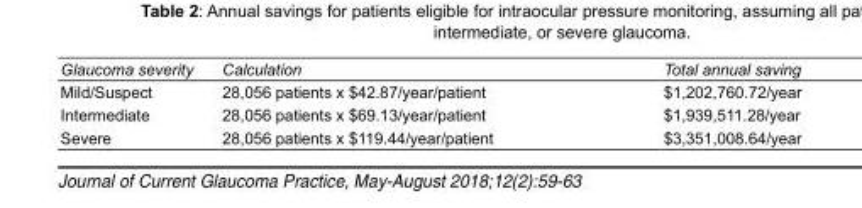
<table><tbody><tr><td>Glaucoma severity</td><td>Calculation</td><td>Total annual saving</td></tr><tr><td>Mild/Suspect</td><td>28,056 patients x $42.87/year/patient</td><td>$1,202,760.72/year</td></tr><tr><td>Intermediate</td><td>28,056 patients x $69.13/year/patient</td><td>$1,939,511.28/year</td></tr><tr><td>Severe</td><td>28,056 patients x $119.44/year/patient</td><td>$3,351,008.64/year</td></tr></tbody></table>